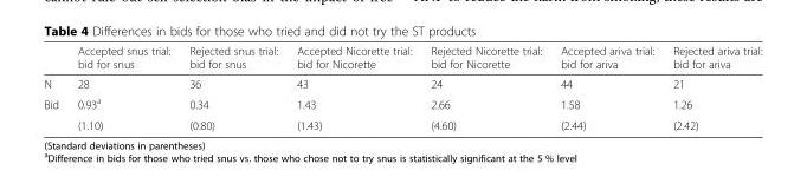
<table><thead><tr><td></td><td>Accepted snus trial: bid for snus</td><td>Rejected snus trial: bid for snus</td><td>Accepted Nicorette trial: bid for Nicorette</td><td>Rejected Nicorette trial: bid for Nicorette</td><td>Accepted ariva trial: bid for ariva</td><td>Rejected ariva trial: bid for ariva</td></tr></thead><tbody><tr><td>N</td><td>28</td><td>36</td><td>43</td><td>24</td><td>44</td><td>21</td></tr><tr><td rowspan="2">Bid</td><td>0.93<sup>a</sup></td><td>0.34</td><td>1.43</td><td>2.66</td><td>1.58</td><td>1.26</td></tr><tr><td>(1.10)</td><td>(0.80)</td><td>(1.43)</td><td>(4.60)</td><td>(2.44)</td><td>(2.42)</td></tr></tbody></table>